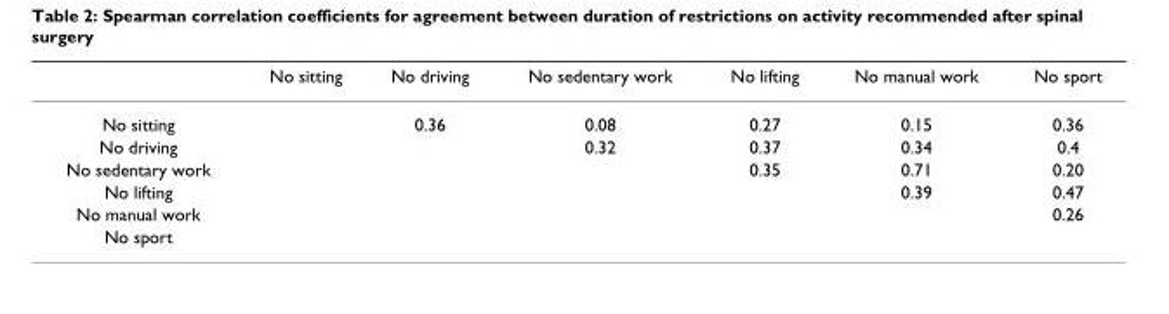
<table><thead><tr><td></td><td>No sitting</td><td>No driving</td><td>No sedentary work</td><td>No lifting</td><td>No manual work</td><td>No sport</td></tr></thead><tbody><tr><td>No sitting</td><td></td><td>0.36</td><td>0.08</td><td>0.27</td><td>0.15</td><td>0.36</td></tr><tr><td>No driving</td><td></td><td></td><td>0.32</td><td>0.37</td><td>0.34</td><td>0.4</td></tr><tr><td>No sedentary work</td><td></td><td></td><td></td><td>0.35</td><td>0.71</td><td>0.20</td></tr><tr><td>No lifting</td><td></td><td></td><td></td><td></td><td>0.39</td><td>0.47</td></tr><tr><td>No manual work</td><td></td><td></td><td></td><td></td><td></td><td>0.26</td></tr><tr><td>No sport</td><td></td><td></td><td></td><td></td><td></td><td></td></tr></tbody></table>